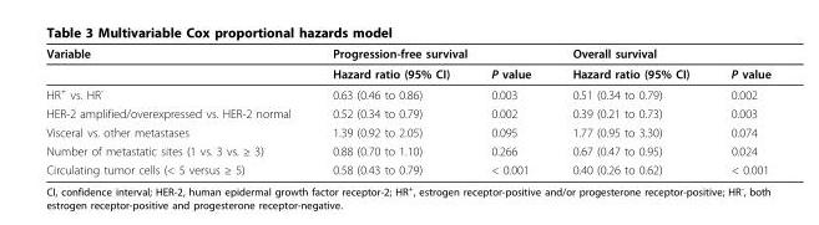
<table><thead><tr><td rowspan="2">Variable</td><td colspan="2">Progression-free survival</td><td colspan="2">Overall survival</td></tr><tr><td>Hazard ratio (95% CI)</td><td>P value</td><td>Hazard ratio (95% CI)</td><td>P value</td></tr></thead><tbody><tr><td>HR<sup>+</sup> vs. HR<sup>-</sup></td><td>0.63 (0.46 to 0.86)</td><td>0.003</td><td>0.51 (0.34 to 0.79)</td><td>0.002</td></tr><tr><td>HER-2 amplified/overexpressed vs. HER-2 normal</td><td>0.52 (0.34 to 0.79)</td><td>0.002</td><td>0.39 (0.21 to 0.73)</td><td>0.003</td></tr><tr><td>Visceral vs. other metastases</td><td>1.39 (0.92 to 2.05)</td><td>0.095</td><td>1.77 (0.95 to 3.30)</td><td>0.074</td></tr><tr><td>Number of metastatic sites (1 vs. 3 vs. ≥ 3)</td><td>0.88 (0.70 to 1.10)</td><td>0.266</td><td>0.67 (0.47 to 0.95)</td><td>0.024</td></tr><tr><td>Circulating tumor cells (&lt; 5 versus ≥ 5)</td><td>0.58 (0.43 to 0.79)</td><td>&lt; 0.001</td><td>0.40 (0.26 to 0.62)</td><td>&lt; 0.001</td></tr></tbody></table>